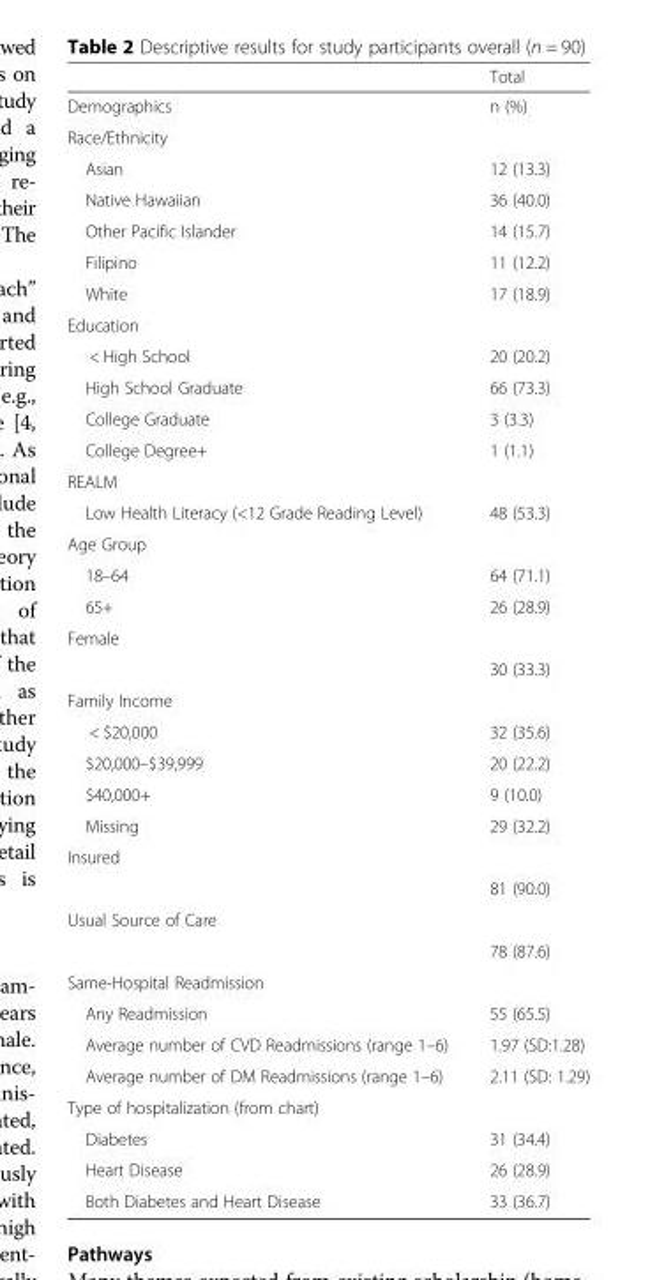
<table><thead><tr><td></td><td>Total</td></tr></thead><tbody><tr><td>Demographics</td><td>n (%)</td></tr><tr><td colspan="2">Race/Ethnicity</td></tr><tr><td>Asian</td><td>12 (13.3)</td></tr><tr><td>Native Hawaiian</td><td>36 (40.0)</td></tr><tr><td>Other Pacific Islander</td><td>14 (15.7)</td></tr><tr><td>Filipino</td><td>11 (12.2)</td></tr><tr><td>White</td><td>17 (18.9)</td></tr><tr><td colspan="2">Education</td></tr><tr><td>&lt; High School</td><td>20 (20.2)</td></tr><tr><td>High School Graduate</td><td>66 (73.3)</td></tr><tr><td>College Graduate</td><td>3 (3.3)</td></tr><tr><td>College Degree+</td><td>1 (1.1)</td></tr><tr><td colspan="2">REALM</td></tr><tr><td>Low Health Literacy (&lt;12 Grade Reading Level)</td><td>48 (53.3)</td></tr><tr><td colspan="2">Age Group</td></tr><tr><td>18–64</td><td>64 (71.1)</td></tr><tr><td>65+</td><td>26 (28.9)</td></tr><tr><td colspan="2">Female</td></tr><tr><td></td><td>30 (33.3)</td></tr><tr><td colspan="2">Family Income</td></tr><tr><td>&lt; $20,000</td><td>32 (35.6)</td></tr><tr><td>$20,000–$39,999</td><td>20 (22.2)</td></tr><tr><td>$40,000+</td><td>9 (10.0)</td></tr><tr><td>Missing</td><td>29 (32.2)</td></tr><tr><td colspan="2">Insured</td></tr><tr><td></td><td>81 (90.0)</td></tr><tr><td colspan="2">Usual Source of Care</td></tr><tr><td></td><td>78 (87.6)</td></tr><tr><td colspan="2">Same-Hospital Readmission</td></tr><tr><td>Any Readmission</td><td>55 (65.5)</td></tr><tr><td>Average number of CVD Readmissions (range 1–6)</td><td>1.97 (SD:1.28)</td></tr><tr><td>Average number of DM Readmissions (range 1–6)</td><td>2.11 (SD: 1.29)</td></tr><tr><td colspan="2">Type of hospitalization (from chart)</td></tr><tr><td>Diabetes</td><td>31 (34.4)</td></tr><tr><td>Heart Disease</td><td>26 (28.9)</td></tr><tr><td>Both Diabetes and Heart Disease</td><td>33 (36.7)</td></tr></tbody></table>